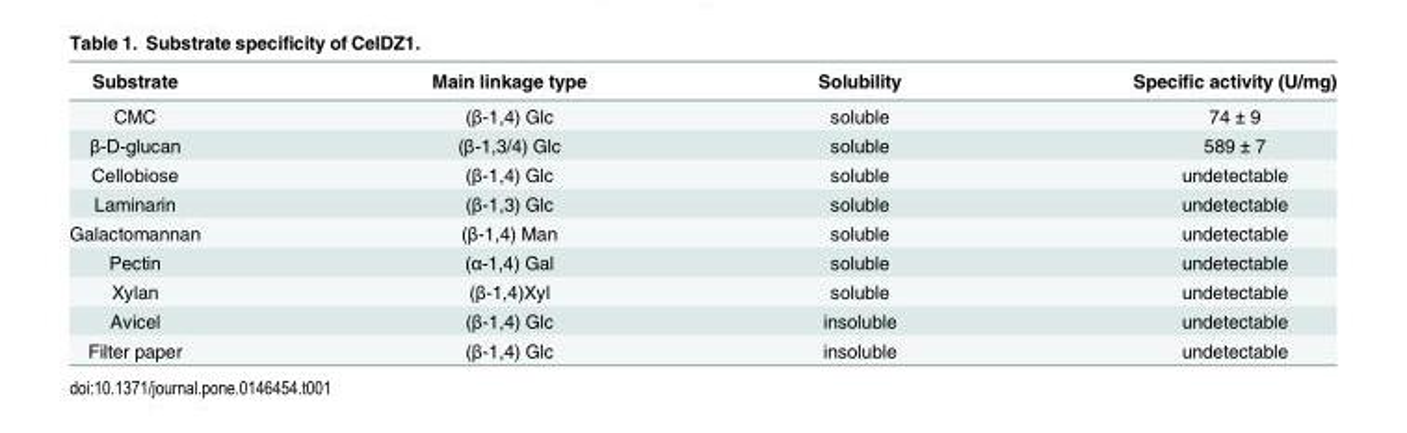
<table><thead><tr><td>Substrate</td><td>Main linkage type</td><td>Solubility</td><td>Specific activity (U/mg)</td></tr></thead><tbody><tr><td>CMC</td><td>(β-1,4) Glc</td><td>soluble</td><td>74 ± 9</td></tr><tr><td>β-D-glucan</td><td>(β-1,3/4) Glc</td><td>soluble</td><td>589 ± 7</td></tr><tr><td>Cellobiose</td><td>(β-1,4) Glc</td><td>soluble</td><td>undetectable</td></tr><tr><td>Laminarin</td><td>(β-1,3) Glc</td><td>soluble</td><td>undetectable</td></tr><tr><td>Galactomannan</td><td>(β-1,4) Man</td><td>soluble</td><td>undetectable</td></tr><tr><td>Pectin</td><td>(α-1,4) Gal</td><td>soluble</td><td>undetectable</td></tr><tr><td>Xylan</td><td>(β-1,4)Xyl</td><td>soluble</td><td>undetectable</td></tr><tr><td>Avicel</td><td>(β-1,4) Glc</td><td>insoluble</td><td>undetectable</td></tr><tr><td>Filter paper</td><td>(β-1,4) Glc</td><td>insoluble</td><td>undetectable</td></tr></tbody></table>